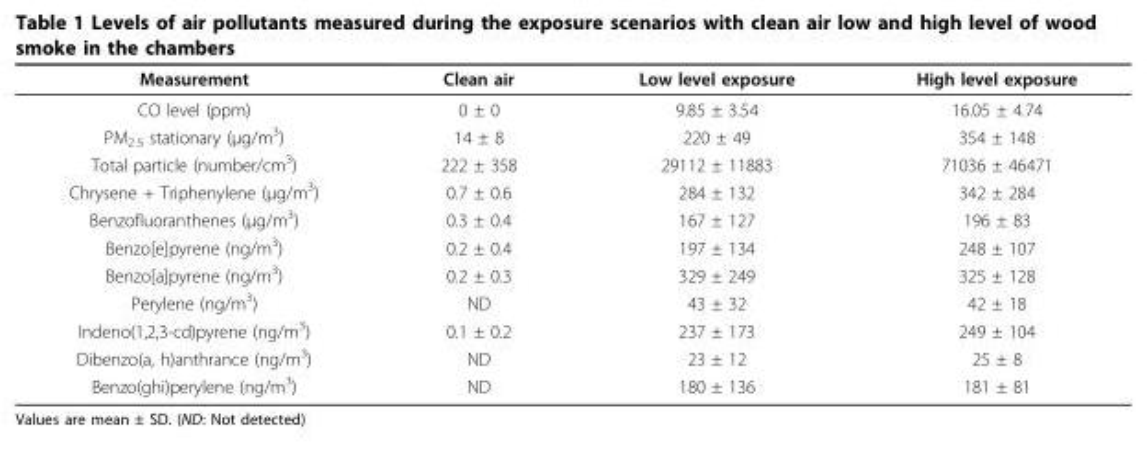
<table><thead><tr><td>Measurement</td><td>Clean air</td><td>Low level exposure</td><td>High level exposure</td></tr></thead><tbody><tr><td>CO level (ppm)</td><td>0 ± 0</td><td>9.85 ± 3.54</td><td>16.05 ± 4.74</td></tr><tr><td>PM<sub>2.5</sub> stationary (μg/m<sup>3</sup>)</td><td>14 ± 8</td><td>220 ± 49</td><td>354 ± 148</td></tr><tr><td>Total particle (number/cm<sup>3</sup>)</td><td>222 ± 358</td><td>29112 ± 11883</td><td>71036 ± 46471</td></tr><tr><td>Chrysene + Triphenylene (μg/m<sup>3</sup>)</td><td>0.7 ± 0.6</td><td>284 ± 132</td><td>342 ± 284</td></tr><tr><td>Benzofluoranthenes (μg/m<sup>3</sup>)</td><td>0.3 ± 0.4</td><td>167 ± 127</td><td>196 ± 83</td></tr><tr><td>Benzo[e]pyrene (ng/m<sup>3</sup>)</td><td>0.2 ± 0.4</td><td>197 ± 134</td><td>248 ± 107</td></tr><tr><td>Benzo[a]pyrene (ng/m<sup>3</sup>)</td><td>0.2 ± 0.3</td><td>329 ± 249</td><td>325 ± 128</td></tr><tr><td>Perylene (ng/m<sup>3</sup>)</td><td>ND</td><td>43 ± 32</td><td>42 ± 18</td></tr><tr><td>Indeno(1,2,3-cd)pyrene (ng/m<sup>3</sup>)</td><td>0.1 ± 0.2</td><td>237 ± 173</td><td>249 ± 104</td></tr><tr><td>Dibenzo(a, h)anthrance (ng/m<sup>3</sup>)</td><td>ND</td><td>23 ± 12</td><td>25 ± 8</td></tr><tr><td>Benzo(ghi)perylene (ng/m<sup>3</sup>)</td><td>ND</td><td>180 ± 136</td><td>181 ± 81</td></tr></tbody></table>